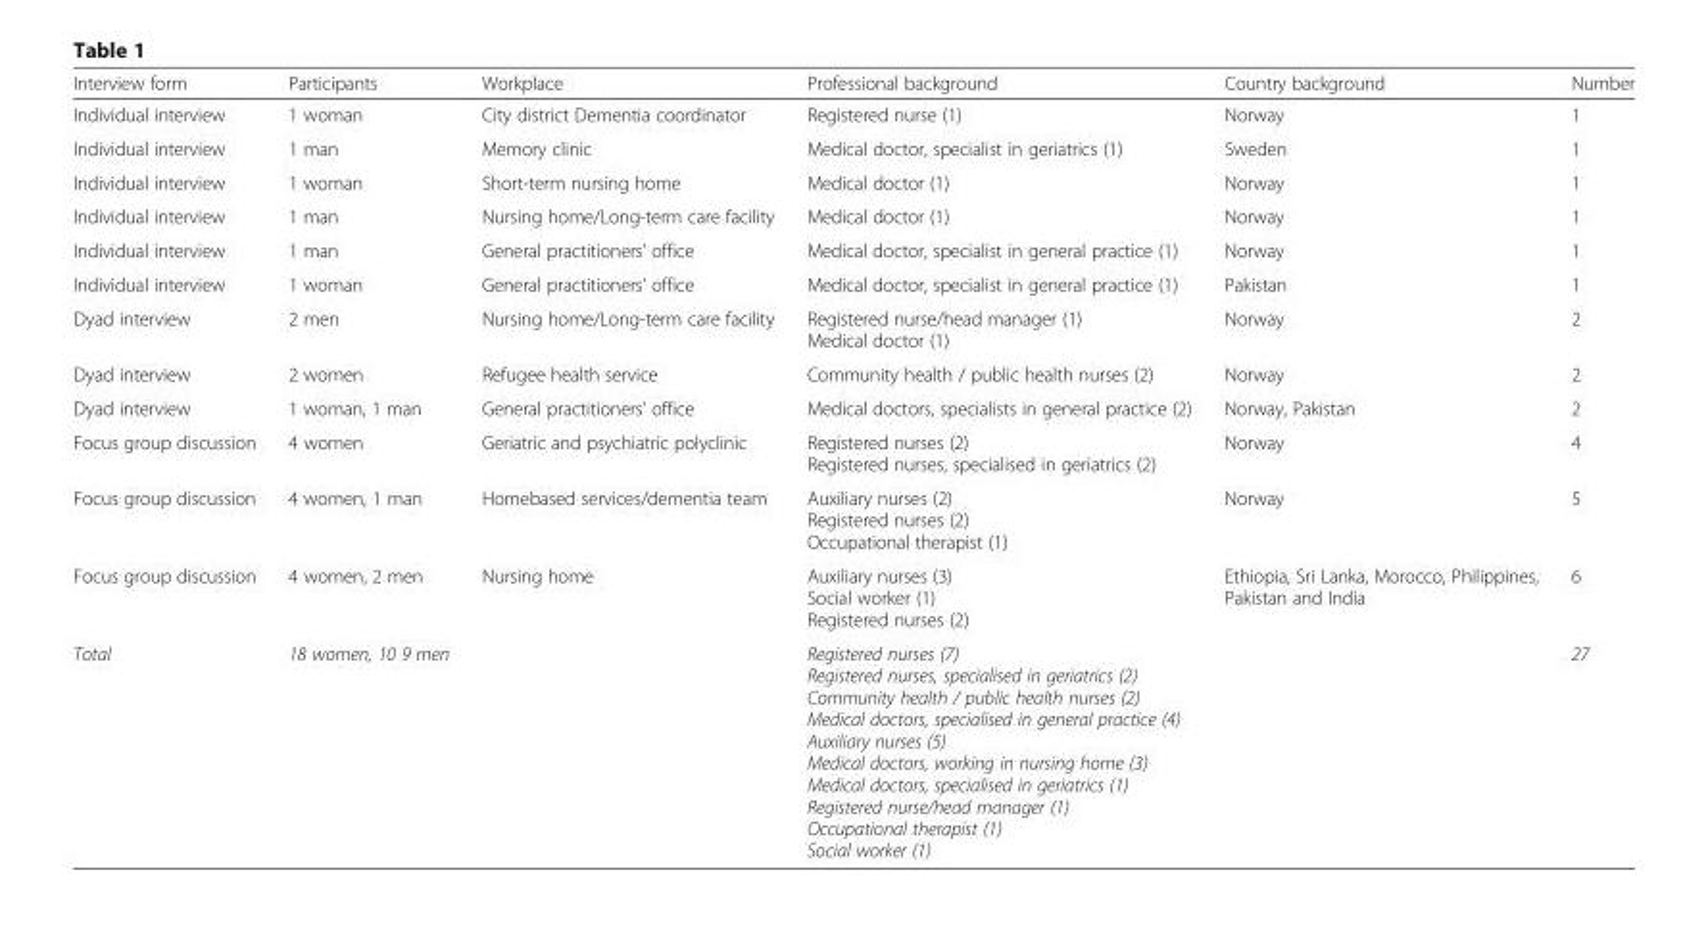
<table><thead><tr><td>Interview form</td><td>Participants</td><td>Workplace</td><td>Professional background</td><td>Country background</td><td>Number</td></tr></thead><tbody><tr><td>Individual interview</td><td>1 woman</td><td>City district Dementia coordinator</td><td>Registered nurse (1)</td><td>Norway</td><td>1</td></tr><tr><td>Individual interview</td><td>1 man</td><td>Memory clinic</td><td>Medical doctor, specialist in geriatrics (1)</td><td>Sweden</td><td>1</td></tr><tr><td>Individual interview</td><td>1 woman</td><td>Short-term nursing home</td><td>Medical doctor (1)</td><td>Norway</td><td>1</td></tr><tr><td>Individual interview</td><td>1 man</td><td>Nursing home/Long-term care facility</td><td>Medical doctor (1)</td><td>Norway</td><td>1</td></tr><tr><td>Individual interview</td><td>1 man</td><td>General practitioners’ office</td><td>Medical doctor, specialist in general practice (1)</td><td>Norway</td><td>1</td></tr><tr><td>Individual interview</td><td>1 woman</td><td>General practitioners’ office</td><td>Medical doctor, specialist in general practice (1)</td><td>Pakistan</td><td>1</td></tr><tr><td>Dyad interview</td><td>2 men</td><td>Nursing home/Long-term care facility</td><td>Registered nurse/head manager (1) Medical doctor (1)</td><td>Norway</td><td>2</td></tr><tr><td>Dyad interview</td><td>2 women</td><td>Refugee health service</td><td>Community health / public health nurses (2)</td><td>Norway</td><td>2</td></tr><tr><td>Dyad interview</td><td>1 woman, 1 man</td><td>General practitioners’ office</td><td>Medical doctors, specialists in general practice (2)</td><td>Norway, Pakistan</td><td>2</td></tr><tr><td>Focus group discussion</td><td>4 women</td><td>Geriatric and psychiatric polyclinic</td><td>Registered nurses (2) Registered nurses, specialised in geriatrics (2)</td><td>Norway</td><td>4</td></tr><tr><td>Focus group discussion</td><td>4 women, 1 man</td><td>Homebased services/dementia team</td><td>Auxiliary nurses (2) Registered nurses (2) Occupational therapist (1)</td><td>Norway</td><td>5</td></tr><tr><td>Focus group discussion</td><td>4 women, 2 men</td><td>Nursing home</td><td>Auxiliary nurses (3) Social worker (1) Registered nurses (2)</td><td>Ethiopia, Sri Lanka, Morocco, Philippines, Pakistan and India</td><td>6</td></tr><tr><td>Total</td><td>18 women, 10 9 men</td><td></td><td>Registered nurses (7) Registered nurses, specialised in geriatrics (2) Community health / public health nurses (2) Medical doctors, specialised in general practice (4) Auxiliary nurses (5) Medical doctors, working in nursing home (3) Medical doctors, specialised in geriatrics (1) Registered nurse/head manager (1) Occupational therapist (1) Social worker (1)</td><td></td><td>27</td></tr></tbody></table>